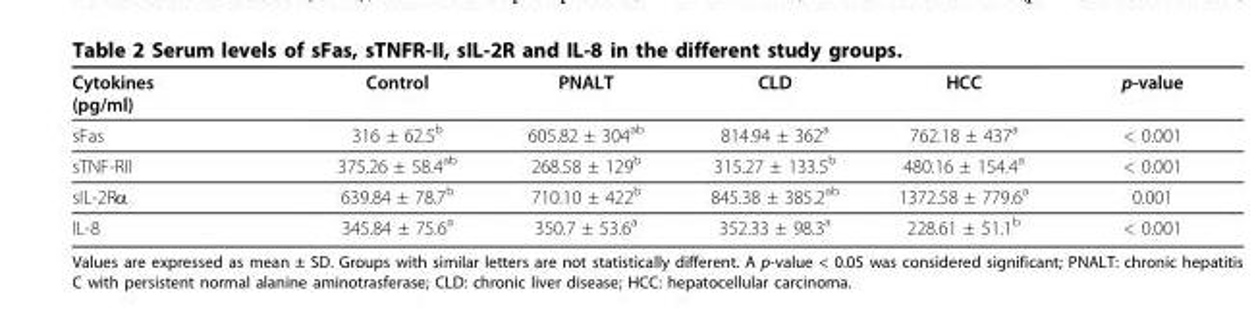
<table><thead><tr><td>Cytokines (pg/ml)</td><td>Control</td><td>PNALT</td><td>CLD</td><td>HCC</td><td>p-value</td></tr></thead><tbody><tr><td>sFas</td><td>316 ± 62.5<sup>b</sup></td><td>605.82 ± 304<sup>ab</sup></td><td>814.94 ± 362<sup>a</sup></td><td>762.18 ± 437<sup>a</sup></td><td>&lt; 0.001</td></tr><tr><td>sTNF-RII</td><td>375.26 ± 58.4<sup>ab</sup></td><td>268.58 ± 129<sup>b</sup></td><td>315.27 ± 133.5<sup>b</sup></td><td>480.16 ± 154.4<sup>a</sup></td><td>&lt; 0.001</td></tr><tr><td>sIL-2Rα</td><td>639.84 ± 78.7<sup>b</sup></td><td>710.10 ± 422<sup>b</sup></td><td>845.38 ± 385.2<sup>ab</sup></td><td>1372.58 ± 779.6<sup>a</sup></td><td>0.001</td></tr><tr><td>IL-8</td><td>345.84 ± 75.6<sup>a</sup></td><td>350.7 ± 53.6<sup>a</sup></td><td>352.33 ± 98.3<sup>a</sup></td><td>228.61 ± 51.1<sup>b</sup></td><td>&lt; 0.001</td></tr></tbody></table>